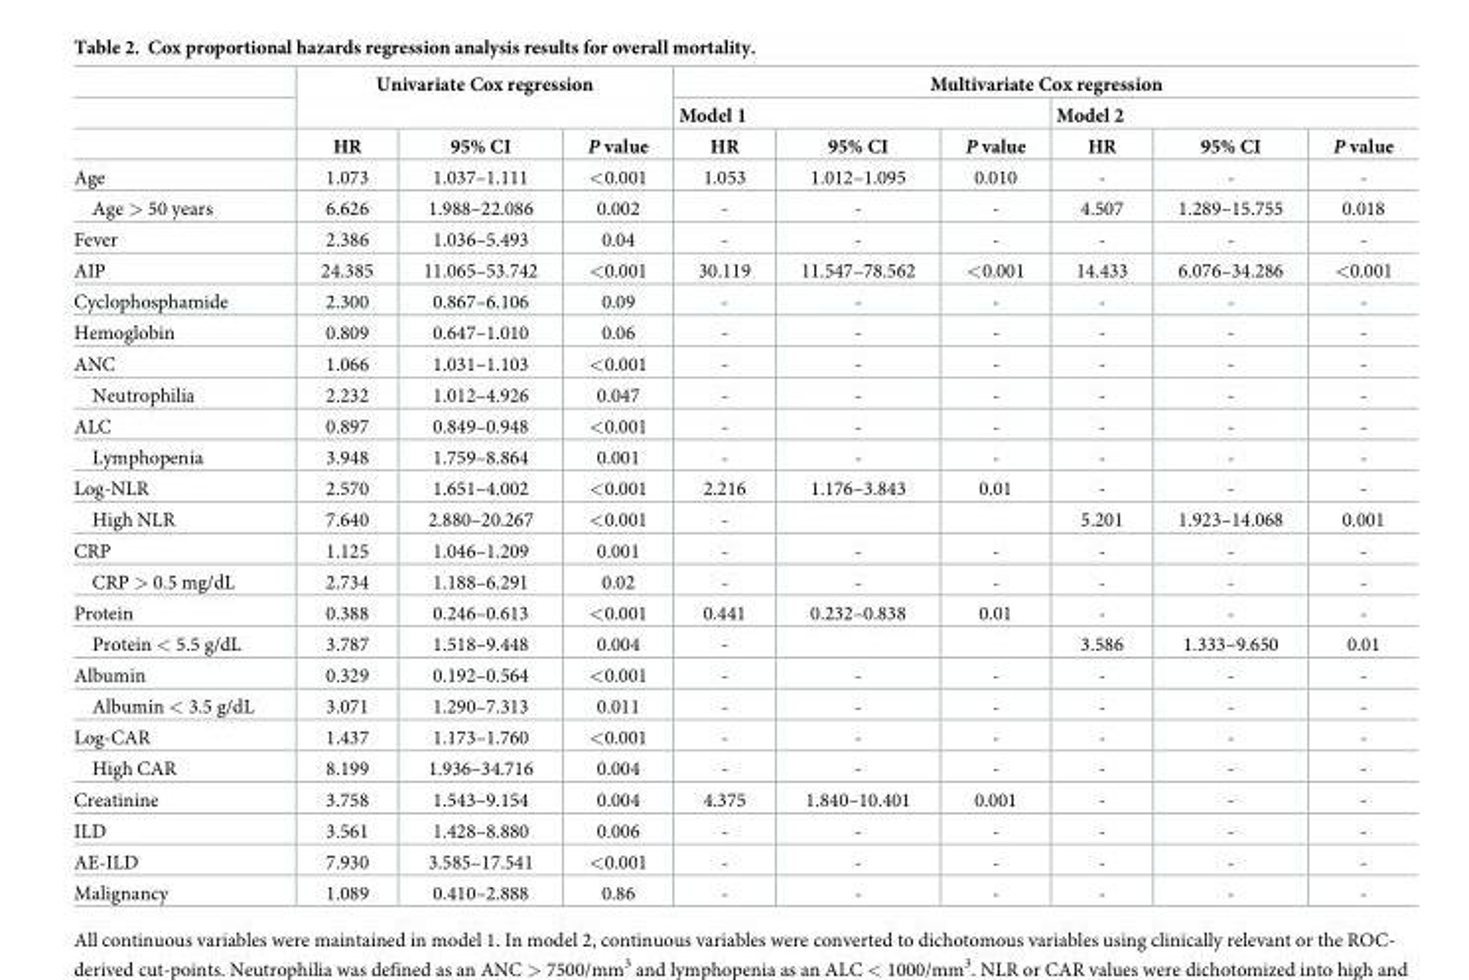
<table><thead><tr><td rowspan="3"></td><td rowspan="2" colspan="3">Univariate Cox regression</td><td colspan="6">Multivariate Cox regression</td></tr><tr><td colspan="3">Model 1</td><td colspan="3">Model 2</td></tr><tr><td>HR</td><td>95% CI</td><td>P value</td><td>HR</td><td>95% CI</td><td>P value</td><td>HR</td><td>95% CI</td><td>P value</td></tr></thead><tbody><tr><td>Age</td><td>1.073</td><td>1.037–1.111</td><td>&lt;0.001</td><td>1.053</td><td>1.012–1.095</td><td>0.010</td><td>-</td><td>-</td><td>-</td></tr><tr><td>Age &gt; 50 years</td><td>6.626</td><td>1.988–22.086</td><td>0.002</td><td>-</td><td>-</td><td>-</td><td>4.507</td><td>1.289–15.755</td><td>0.018</td></tr><tr><td>Fever</td><td>2.386</td><td>1.036–5.493</td><td>0.04</td><td>-</td><td>-</td><td>-</td><td>-</td><td>-</td><td>-</td></tr><tr><td>AIP</td><td>24.385</td><td>11.065–53.742</td><td>&lt;0.001</td><td>30.119</td><td>11.547–78.562</td><td>&lt;0.001</td><td>14.433</td><td>6.076–34.286</td><td>&lt;0.001</td></tr><tr><td>Cyclophosphamide</td><td>2.300</td><td>0.867–6.106</td><td>0.09</td><td>-</td><td>-</td><td>-</td><td>-</td><td>-</td><td>-</td></tr><tr><td>Hemoglobin</td><td>0.809</td><td>0.647–1.010</td><td>0.06</td><td>-</td><td>-</td><td>-</td><td>-</td><td>-</td><td>-</td></tr><tr><td>ANC</td><td>1.066</td><td>1.031–1.103</td><td>&lt;0.001</td><td>-</td><td>-</td><td>-</td><td>-</td><td>-</td><td>-</td></tr><tr><td>Neutrophilia</td><td>2.232</td><td>1.012–4.926</td><td>0.047</td><td>-</td><td>-</td><td>-</td><td>-</td><td>-</td><td>-</td></tr><tr><td>ALC</td><td>0.897</td><td>0.849–0.948</td><td>&lt;0.001</td><td>-</td><td>-</td><td>-</td><td>-</td><td>-</td><td>-</td></tr><tr><td>Lymphopenia</td><td>3.948</td><td>1.759–8.864</td><td>0.001</td><td>-</td><td>-</td><td>-</td><td>-</td><td>-</td><td>-</td></tr><tr><td>Log-NLR</td><td>2.570</td><td>1.651–4.002</td><td>&lt;0.001</td><td>2.216</td><td>1.176–3.843</td><td>0.01</td><td>-</td><td>-</td><td>-</td></tr><tr><td>High NLR</td><td>7.640</td><td>2.880–20.267</td><td>&lt;0.001</td><td>-</td><td></td><td></td><td>5.201</td><td>1.923–14.068</td><td>0.001</td></tr><tr><td>CRP</td><td>1.125</td><td>1.046–1.209</td><td>0.001</td><td>-</td><td>-</td><td>-</td><td>-</td><td>-</td><td>-</td></tr><tr><td>CRP &gt; 0.5 mg/dL</td><td>2.734</td><td>1.188–6.291</td><td>0.02</td><td>-</td><td>-</td><td>-</td><td>-</td><td>-</td><td>-</td></tr><tr><td>Protein</td><td>0.388</td><td>0.246–0.613</td><td>&lt;0.001</td><td>0.441</td><td>0.232–0.838</td><td>0.01</td><td>-</td><td>-</td><td>-</td></tr><tr><td>Protein &lt; 5.5 g/dL</td><td>3.787</td><td>1.518–9.448</td><td>0.004</td><td>-</td><td></td><td></td><td>3.586</td><td>1.333–9.650</td><td>0.01</td></tr><tr><td>Albumin</td><td>0.329</td><td>0.192–0.564</td><td>&lt;0.001</td><td>-</td><td>-</td><td>-</td><td>-</td><td>-</td><td>-</td></tr><tr><td>Albumin &lt; 3.5 g/dL</td><td>3.071</td><td>1.290–7.313</td><td>0.011</td><td>-</td><td>-</td><td>-</td><td>-</td><td>-</td><td>-</td></tr><tr><td>Log-CAR</td><td>1.437</td><td>1.173–1.760</td><td>&lt;0.001</td><td>-</td><td>-</td><td>-</td><td>-</td><td>-</td><td>-</td></tr><tr><td>High CAR</td><td>8.199</td><td>1.936–34.716</td><td>0.004</td><td>-</td><td>-</td><td>-</td><td>-</td><td>-</td><td>-</td></tr><tr><td>Creatinine</td><td>3.758</td><td>1.543–9.154</td><td>0.004</td><td>4.375</td><td>1.840–10.401</td><td>0.001</td><td>-</td><td>-</td><td>-</td></tr><tr><td>ILD</td><td>3.561</td><td>1.428–8.880</td><td>0.006</td><td>-</td><td>-</td><td>-</td><td>-</td><td>-</td><td>-</td></tr><tr><td>AE-ILD</td><td>7.930</td><td>3.585–17.541</td><td>&lt;0.001</td><td>-</td><td>-</td><td>-</td><td>-</td><td>-</td><td>-</td></tr><tr><td>Malignancy</td><td>1.089</td><td>0.410–2.888</td><td>0.86</td><td>-</td><td>-</td><td>-</td><td>-</td><td>-</td><td>-</td></tr></tbody></table>